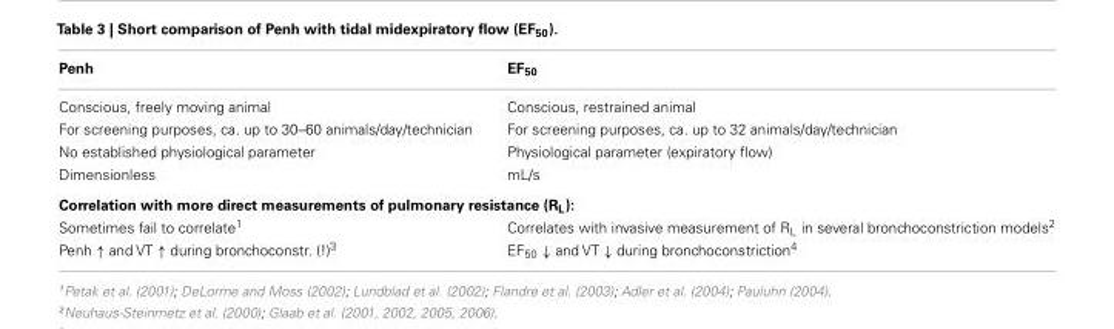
<table><thead><tr><td>Penh</td><td>EF<sub>50</sub></td></tr></thead><tbody><tr><td>Conscious, freely moving animal</td><td>Conscious, restrained animal</td></tr><tr><td>For screening purposes, ca. up to 30–60 animals/day/technician</td><td>For screening purposes, ca. up to 32 animals/day/technician</td></tr><tr><td>No established physiological parameter</td><td>Physiological parameter (expiratory flow)</td></tr><tr><td>Dimensionless</td><td>mL/s</td></tr><tr><td colspan="2">Correlation with more direct measurements of pulmonary resistance (RL):</td></tr><tr><td>Sometimes fail to correlate<sup>1</sup></td><td>Correlates with invasive measurement of R<sub>L</sub> in several bronchoconstriction models<sup>2</sup></td></tr><tr><td>Penh ↑ and VT ↑ during bronchoconstr. (!)<sup>3</sup></td><td>EF<sub>50</sub> ↓ and VT ↓ during bronchoconstriction<sup>4</sup></td></tr></tbody></table>